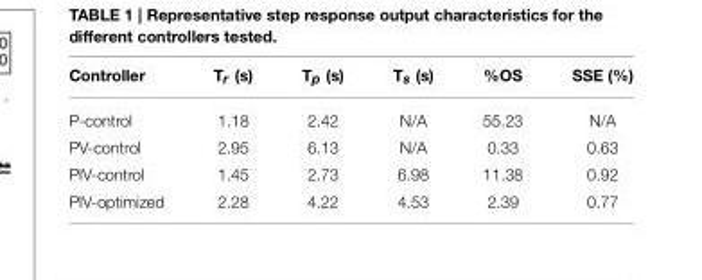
<table><thead><tr><td>Controller</td><td>T<sub>r</sub> (s)</td><td>T<sub>p</sub> (s)</td><td>T<sub>s</sub> (s)</td><td>%OS</td><td>SSE (%)</td></tr></thead><tbody><tr><td>P-control</td><td>1.18</td><td>2.42</td><td>N/A</td><td>55.23</td><td>N/A</td></tr><tr><td>PV-control</td><td>2.95</td><td>6.13</td><td>N/A</td><td>0.33</td><td>0.63</td></tr><tr><td>PIV-control</td><td>1.45</td><td>2.73</td><td>6.98</td><td>11.38</td><td>0.92</td></tr><tr><td>PIV-optimized</td><td>2.28</td><td>4.22</td><td>4.53</td><td>2.39</td><td>0.77</td></tr></tbody></table>